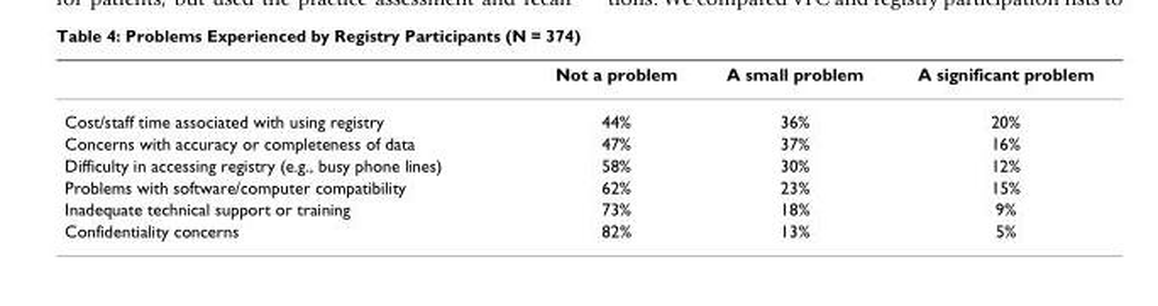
<table><thead><tr><td></td><td>Not a problem</td><td>A small problem</td><td>A significant problem</td></tr></thead><tbody><tr><td>Cost/staff time associated with using registry</td><td>44%</td><td>36%</td><td>20%</td></tr><tr><td>Concerns with accuracy or completeness of data</td><td>47%</td><td>37%</td><td>16%</td></tr><tr><td>Difficulty in accessing registry (e.g., busy phone lines)</td><td>58%</td><td>30%</td><td>12%</td></tr><tr><td>Problems with software/computer compatibility</td><td>62%</td><td>23%</td><td>15%</td></tr><tr><td>Inadequate technical support or training</td><td>73%</td><td>18%</td><td>9%</td></tr><tr><td>Confidentiality concerns</td><td>82%</td><td>13%</td><td>5%</td></tr></tbody></table>